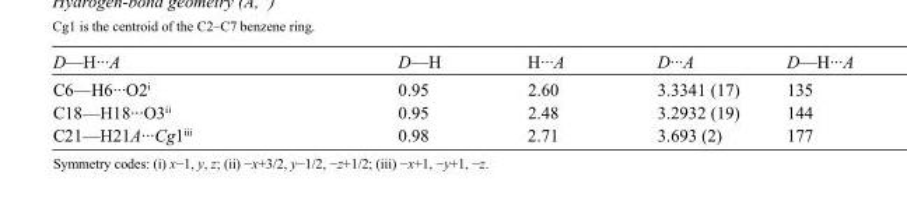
<table><tbody><tr><td>D—H···A</td><td>D—H</td><td>H···A</td><td>D···A</td><td>D—H···A</td></tr><tr><td>C6—H6···O2<sup>i</sup></td><td>0.95</td><td>2.60</td><td>3.3341 (17)</td><td>135</td></tr><tr><td>C18—H18···O3<sup>ii</sup></td><td>0.95</td><td>2.48</td><td>3.2932 (19)</td><td>144</td></tr><tr><td>C21—H21A···Cg1<sup>iii</sup></td><td>0.98</td><td>2.71</td><td>3.693 (2)</td><td>177</td></tr></tbody></table>